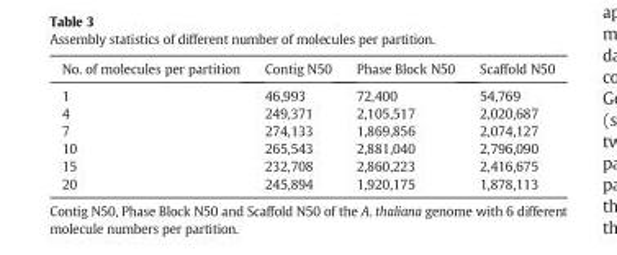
<table><thead><tr><td>No. of molecules per partition</td><td>Contig N50</td><td>Phase Block N50</td><td>Scaffold N50</td></tr></thead><tbody><tr><td>1</td><td>46,993</td><td>72,400</td><td>54,769</td></tr><tr><td>4</td><td>249,371</td><td>2,105,517</td><td>2,020,687</td></tr><tr><td>7</td><td>274,133</td><td>1,869,856</td><td>2,074,127</td></tr><tr><td>10</td><td>265,543</td><td>2,881,040</td><td>2,796,090</td></tr><tr><td>15</td><td>232,708</td><td>2,860,223</td><td>2,416,675</td></tr><tr><td>20</td><td>245,894</td><td>1,920,175</td><td>1,878,113</td></tr></tbody></table>